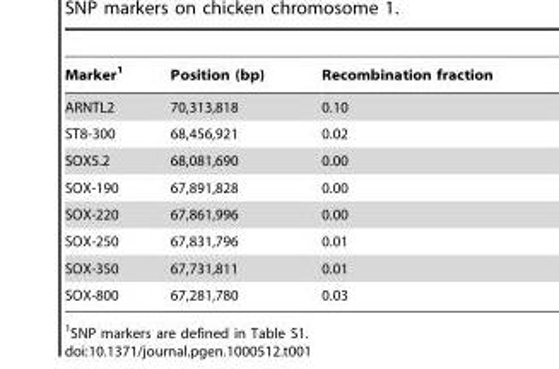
<table><thead><tr><td>Marker<sup>1</sup></td><td>Position (bp)</td><td>Recombination fraction</td></tr></thead><tbody><tr><td>ARNTL2</td><td>70,313,818</td><td>0.10</td></tr><tr><td>ST8-300</td><td>68,456,921</td><td>0.02</td></tr><tr><td>SOX5.2</td><td>68,081,690</td><td>0.00</td></tr><tr><td>SOX-190</td><td>67,891,828</td><td>0.00</td></tr><tr><td>SOX-220</td><td>67,861,996</td><td>0.00</td></tr><tr><td>SOX-250</td><td>67,831,796</td><td>0.01</td></tr><tr><td>SOX-350</td><td>67,731,811</td><td>0.01</td></tr><tr><td>SOX-800</td><td>67,281,780</td><td>0.03</td></tr></tbody></table>